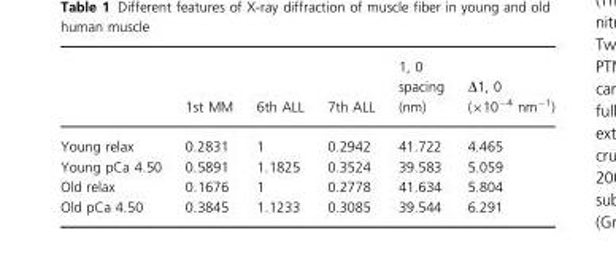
<table><thead><tr><td></td><td>1st MM</td><td>6th ALL</td><td>7th ALL</td><td>1, 0 spacing (nm)</td><td>Δ1, 0 (×10<sup>−4</sup> nm<sup>−1</sup>)</td></tr></thead><tbody><tr><td>Young relax</td><td>0.2831</td><td>1</td><td>0.2942</td><td>41.722</td><td>4.465</td></tr><tr><td>Young pCa 4.50</td><td>0.5891</td><td>1.1825</td><td>0.3524</td><td>39.583</td><td>5.059</td></tr><tr><td>Old relax</td><td>0.1676</td><td>1</td><td>0.2778</td><td>41.634</td><td>5.804</td></tr><tr><td>Old pCa 4.50</td><td>0.3845</td><td>1.1233</td><td>0.3085</td><td>39.544</td><td>6.291</td></tr></tbody></table>